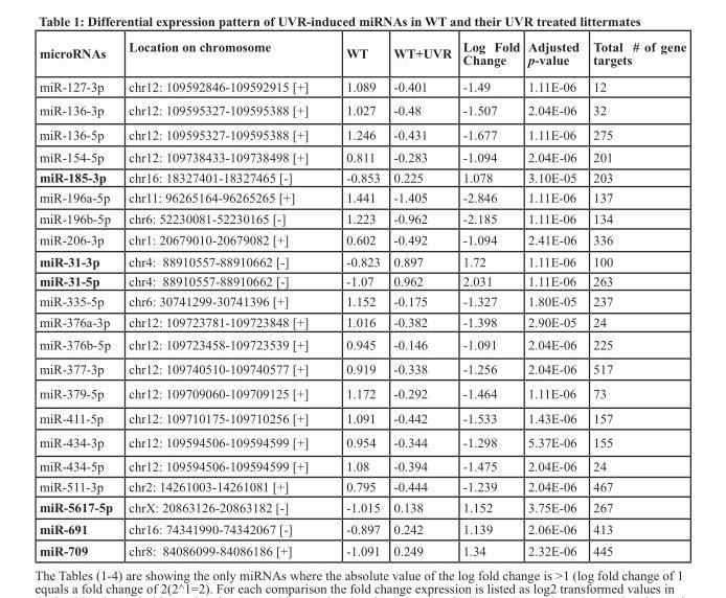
<table><thead><tr><td>microRNAs</td><td>Location on chromosome</td><td>WT</td><td>WT+UVR</td><td>Log Fold Change</td><td>Adjusted p-value</td><td>Total # of gene targets</td></tr></thead><tbody><tr><td>miR-127-3p</td><td>chr12: 109592846-109592915 [+]</td><td>1.089</td><td>-0.401</td><td>-1.49</td><td>1.11E-06</td><td>12</td></tr><tr><td>miR-136-3p</td><td>chr12: 109595327-109595388 [+]</td><td>1.027</td><td>-0.48</td><td>-1.507</td><td>2.04E-06</td><td>32</td></tr><tr><td>miR-136-5p</td><td>chr12: 109595327-109595388 [+]</td><td>1.246</td><td>-0.431</td><td>-1.677</td><td>1.11E-06</td><td>275</td></tr><tr><td>miR-154-5p</td><td>chr12: 109738433-109738498 [+]</td><td>0.811</td><td>-0.283</td><td>-1.094</td><td>2.04E-06</td><td>201</td></tr><tr><td>miR-185-3p</td><td>chr16: 18327401-18327465 [-]</td><td>-0.853</td><td>0.225</td><td>1.078</td><td>3.10E-05</td><td>203</td></tr><tr><td>miR-196a-5p</td><td>chr11: 96265164-96265265 [+]</td><td>1.441</td><td>-1.405</td><td>-2.846</td><td>1.11E-06</td><td>137</td></tr><tr><td>miR-196b-5p</td><td>chr6: 52230081-52230165 [-]</td><td>1.223</td><td>-0.962</td><td>-2.185</td><td>1.11E-06</td><td>134</td></tr><tr><td>miR-206-3p</td><td>chr1: 20679010-20679082 [+]</td><td>0.602</td><td>-0.492</td><td>-1.094</td><td>2.41E-06</td><td>336</td></tr><tr><td>miR-31-3p</td><td>chr4: 88910557-88910662 [-]</td><td>-0.823</td><td>0.897</td><td>1.72</td><td>1.11E-06</td><td>100</td></tr><tr><td>miR-31-5p</td><td>chr4: 88910557-88910662 [-]</td><td>-1.07</td><td>0.962</td><td>2.031</td><td>1.11E-06</td><td>263</td></tr><tr><td>miR-335-5p</td><td>chr6: 30741299-30741396 [+]</td><td>1.152</td><td>-0.175</td><td>-1.327</td><td>1.80E-05</td><td>237</td></tr><tr><td>miR-376a-3p</td><td>chr12: 109723781-109723848 [+]</td><td>1.016</td><td>-0.382</td><td>-1.398</td><td>2.90E-05</td><td>24</td></tr><tr><td>miR-376b-5p</td><td>chr12: 109723458-109723539 [+]</td><td>0.945</td><td>-0.146</td><td>-1.091</td><td>2.04E-06</td><td>225</td></tr><tr><td>miR-377-3p</td><td>chr12: 109740510-109740577 [+]</td><td>0.919</td><td>-0.338</td><td>-1.256</td><td>2.04E-06</td><td>517</td></tr><tr><td>miR-379-5p</td><td>chr12: 109709060-109709125 [+]</td><td>1.172</td><td>-0.292</td><td>-1.464</td><td>1.11E-06</td><td>73</td></tr><tr><td>miR-411-5p</td><td>chr12: 109710175-109710256 [+]</td><td>1.091</td><td>-0.442</td><td>-1.533</td><td>1.43E-06</td><td>157</td></tr><tr><td>miR-434-3p</td><td>chr12: 109594506-109594599 [+]</td><td>0.954</td><td>-0.344</td><td>-1.298</td><td>5.37E-06</td><td>155</td></tr><tr><td>miR-434-5p</td><td>chr12: 109594506-109594599 [+]</td><td>1.08</td><td>-0.394</td><td>-1.475</td><td>2.04E-06</td><td>24</td></tr><tr><td>miR-511-3p</td><td>chr2: 14261003-14261081 [+]</td><td>0.795</td><td>-0.444</td><td>-1.239</td><td>2.04E-06</td><td>467</td></tr><tr><td>miR-5617-5p</td><td>chrX: 20863126-20863182 [-]</td><td>-1.015</td><td>0.138</td><td>1.152</td><td>3.75E-06</td><td>267</td></tr><tr><td>miR-691</td><td>chr16: 74341990-74342067 [-]</td><td>-0.897</td><td>0.242</td><td>1.139</td><td>2.06E-06</td><td>413</td></tr><tr><td>miR-709</td><td>chr8: 84086099-84086186 [+]</td><td>-1.091</td><td>0.249</td><td>1.34</td><td>2.32E-06</td><td>445</td></tr></tbody></table>